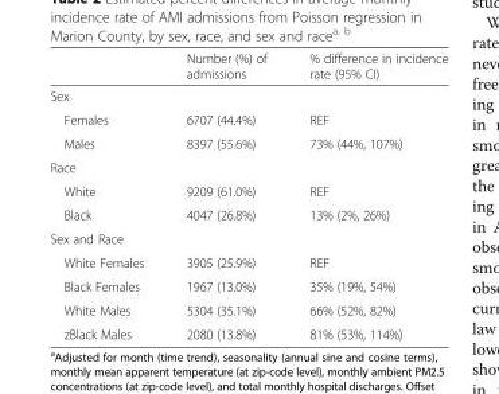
<table><thead><tr><td></td><td>Number (%) of admissions</td><td>% difference in incidence rate (95% CI)</td></tr></thead><tbody><tr><td colspan="3">Sex</td></tr><tr><td>Females</td><td>6707 (44.4%)</td><td>REF</td></tr><tr><td>Males</td><td>8397 (55.6%)</td><td>73% (44%, 107%)</td></tr><tr><td colspan="3">Race</td></tr><tr><td>White</td><td>9209 (61.0%)</td><td>REF</td></tr><tr><td>Black</td><td>4047 (26.8%)</td><td>13% (2%, 26%)</td></tr><tr><td colspan="3">Sex and Race</td></tr><tr><td>White Females</td><td>3905 (25.9%)</td><td>REF</td></tr><tr><td>Black Females</td><td>1967 (13.0%)</td><td>35% (19%, 54%)</td></tr><tr><td>White Males</td><td>5304 (35.1%)</td><td>66% (52%, 82%)</td></tr><tr><td>zBlack Males</td><td>2080 (13.8%)</td><td>81% (53%, 114%)</td></tr></tbody></table>